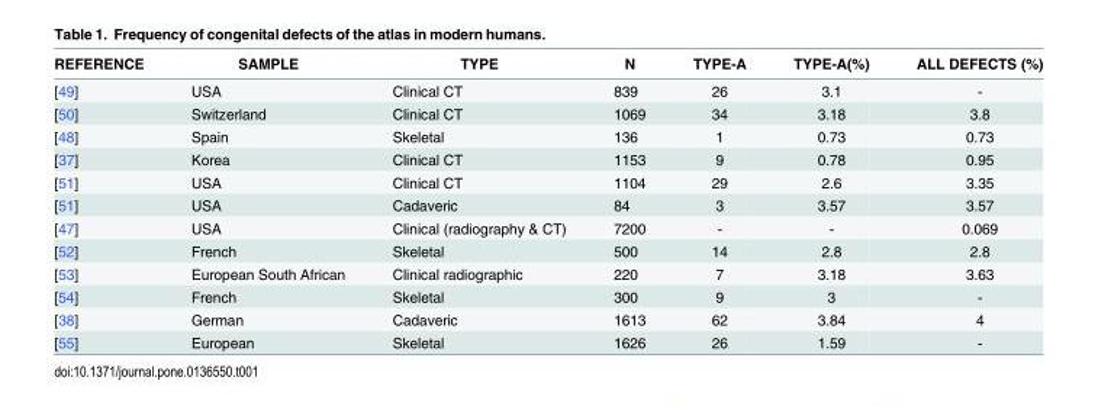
<table><thead><tr><td>REFERENCE</td><td>SAMPLE</td><td>TYPE</td><td>N</td><td>TYPE-A</td><td>TYPE-A(%)</td><td>ALL DEFECTS (%)</td></tr></thead><tbody><tr><td>[49]</td><td>USA</td><td>Clinical CT</td><td>839</td><td>26</td><td>3.1</td><td>-</td></tr><tr><td>[50]</td><td>Switzerland</td><td>Clinical CT</td><td>1069</td><td>34</td><td>3.18</td><td>3.8</td></tr><tr><td>[48]</td><td>Spain</td><td>Skeletal</td><td>136</td><td>1</td><td>0.73</td><td>0.73</td></tr><tr><td>[37]</td><td>Korea</td><td>Clinical CT</td><td>1153</td><td>9</td><td>0.78</td><td>0.95</td></tr><tr><td>[51]</td><td>USA</td><td>Clinical CT</td><td>1104</td><td>29</td><td>2.6</td><td>3.35</td></tr><tr><td>[51]</td><td>USA</td><td>Cadaveric</td><td>84</td><td>3</td><td>3.57</td><td>3.57</td></tr><tr><td>[47]</td><td>USA</td><td>Clinical (radiography &amp; CT)</td><td>7200</td><td>-</td><td>-</td><td>0.069</td></tr><tr><td>[52]</td><td>French</td><td>Skeletal</td><td>500</td><td>14</td><td>2.8</td><td>2.8</td></tr><tr><td>[53]</td><td>European South African</td><td>Clinical radiographic</td><td>220</td><td>7</td><td>3.18</td><td>3.63</td></tr><tr><td>[54]</td><td>French</td><td>Skeletal</td><td>300</td><td>9</td><td>3</td><td>-</td></tr><tr><td>[38]</td><td>German</td><td>Cadaveric</td><td>1613</td><td>62</td><td>3.84</td><td>4</td></tr><tr><td>[55]</td><td>European</td><td>Skeletal</td><td>1626</td><td>26</td><td>1.59</td><td>-</td></tr></tbody></table>